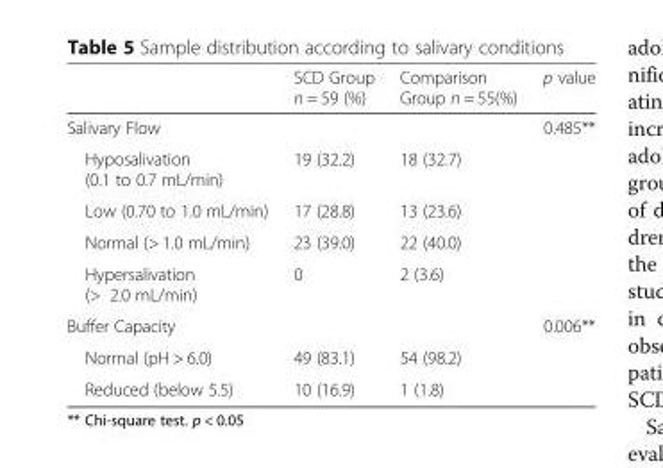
<table><thead><tr><td></td><td>SCD Group n = 59 (%)</td><td>Comparison Group n = 55(%)</td><td>p value</td></tr></thead><tbody><tr><td>Salivary Flow</td><td></td><td></td><td>0.485**</td></tr><tr><td>Hyposalivation (0.1 to 0.7 mL/min)</td><td>19 (32.2)</td><td>18 (32.7)</td><td></td></tr><tr><td>Low (0.70 to 1.0 mL/min)</td><td>17 (28.8)</td><td>13 (23.6)</td><td></td></tr><tr><td>Normal (&gt; 1.0 mL/min)</td><td>23 (39.0)</td><td>22 (40.0)</td><td></td></tr><tr><td>Hypersalivation (&gt; 2.0 mL/min)</td><td>0</td><td>2 (3.6)</td><td></td></tr><tr><td>Buffer Capacity</td><td></td><td></td><td>0.006**</td></tr><tr><td>Normal (pH &gt; 6.0)</td><td>49 (83.1)</td><td>54 (98.2)</td><td></td></tr><tr><td>Reduced (below 5.5)</td><td>10 (16.9)</td><td>1 (1.8)</td><td></td></tr></tbody></table>